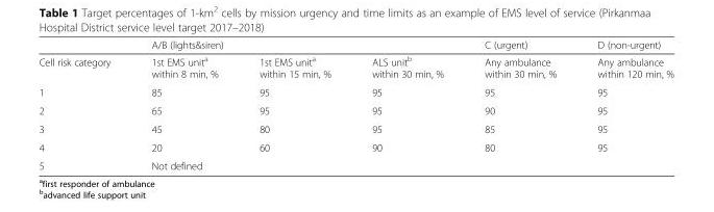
<table><thead><tr><td rowspan="2">Cell risk category</td><td colspan="3">A/B (lights&amp;siren)</td><td rowspan="2">C (urgent) Any ambulance within 30 min, %</td><td rowspan="2">D (non-urgent) Any ambulance within 120 min, %</td></tr><tr><td>1st EMS unit<sup>a</sup> within 8 min, %</td><td>1st EMS unit<sup>a</sup> within 15 min, %</td><td>ALS unit<sup>b</sup> within 30 min, %</td></tr></thead><tbody><tr><td>1</td><td>85</td><td>95</td><td>95</td><td>95</td><td>95</td></tr><tr><td>2</td><td>65</td><td>95</td><td>95</td><td>90</td><td>95</td></tr><tr><td>3</td><td>45</td><td>80</td><td>95</td><td>85</td><td>95</td></tr><tr><td>4</td><td>20</td><td>60</td><td>90</td><td>80</td><td>95</td></tr><tr><td>5</td><td colspan="5">Not defined</td></tr></tbody></table>